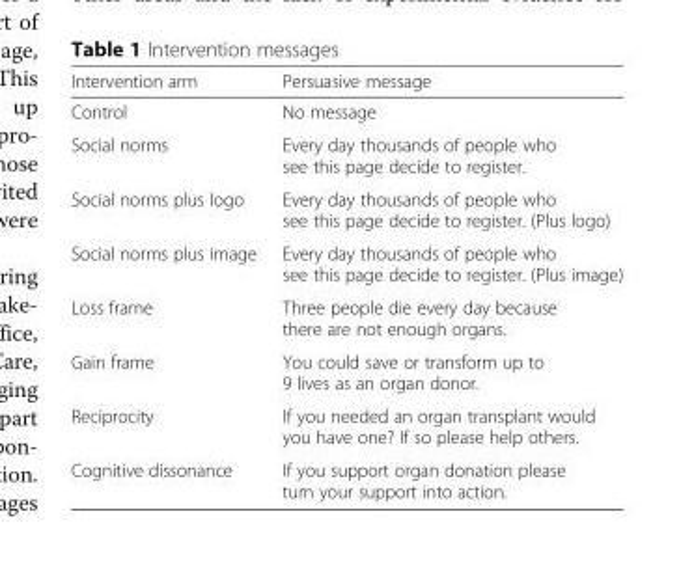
<table><thead><tr><td>Intervention arm</td><td>Persuasive message</td></tr></thead><tbody><tr><td>Control</td><td>No message</td></tr><tr><td>Social norms</td><td>Every day thousands of people who see this page decide to register.</td></tr><tr><td>Social norms plus logo</td><td>Every day thousands of people who see this page decide to register. (Plus logo)</td></tr><tr><td>Social norms plus image</td><td>Every day thousands of people who see this page decide to register. (Plus image)</td></tr><tr><td>Loss frame</td><td>Three people die every day because there are not enough organs.</td></tr><tr><td>Gain frame</td><td>You could save or transform up to 9 lives as an organ donor.</td></tr><tr><td>Reciprocity</td><td>If you needed an organ transplant would you have one? If so please help others.</td></tr><tr><td>Cognitive dissonance</td><td>If you support organ donation please turn your support into action.</td></tr></tbody></table>